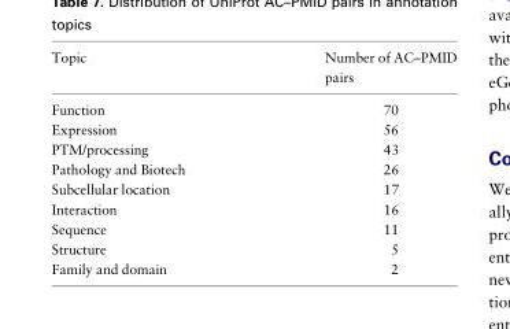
<table><thead><tr><td>Topic</td><td>Number of AC–PMID pairs</td></tr></thead><tbody><tr><td>Function</td><td>70</td></tr><tr><td>Expression</td><td>56</td></tr><tr><td>PTM/processing</td><td>43</td></tr><tr><td>Pathology and Biotech</td><td>26</td></tr><tr><td>Subcellular location</td><td>17</td></tr><tr><td>Interaction</td><td>16</td></tr><tr><td>Sequence</td><td>11</td></tr><tr><td>Structure</td><td>5</td></tr><tr><td>Family and domain</td><td>2</td></tr></tbody></table>